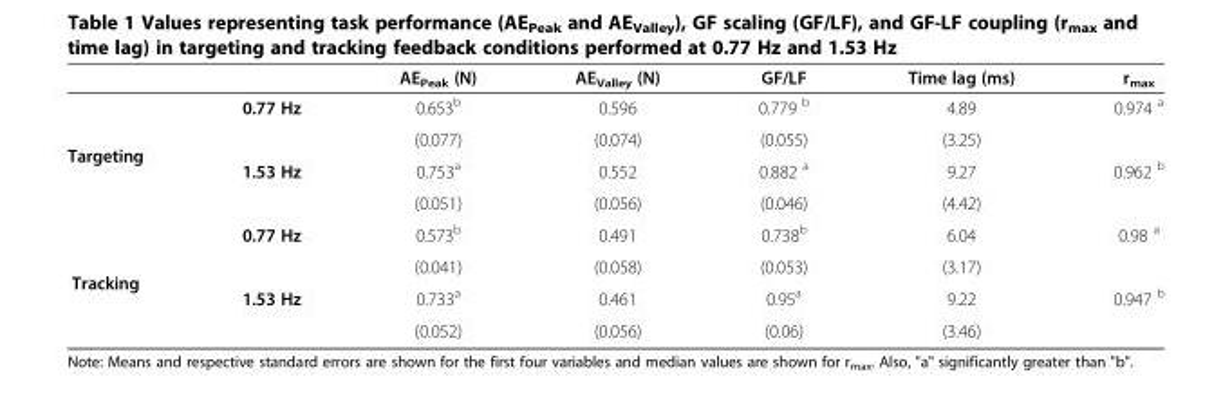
<table><thead><tr><td></td><td></td><td>AE<sub>Peak</sub> (N)</td><td>AE<sub>Valley</sub> (N)</td><td>GF/LF</td><td>Time lag (ms)</td><td>r<sub>max</sub></td></tr></thead><tbody><tr><td rowspan="4">Targeting</td><td rowspan="2">0.77 Hz</td><td>0.653<sup>b</sup></td><td>0.596</td><td>0.779 <sup>b</sup></td><td>4.89</td><td rowspan="2">0.974 <sup>a</sup></td></tr><tr><td>(0.077)</td><td>(0.074)</td><td>(0.055)</td><td>(3.25)</td></tr><tr><td rowspan="2">1.53 Hz</td><td>0.753<sup>a</sup></td><td>0.552</td><td>0.882 <sup>a</sup></td><td>9.27</td><td rowspan="2">0.962 <sup>b</sup></td></tr><tr><td>(0.051)</td><td>(0.056)</td><td>(0.046)</td><td>(4.42)</td></tr><tr><td rowspan="4">Tracking</td><td>0.77 Hz</td><td>0.573<sup>b</sup></td><td>0.491</td><td>0.738<sup>b</sup></td><td>6.04</td><td>0.98 <sup>a</sup></td></tr><tr><td></td><td>(0.041)</td><td>(0.058)</td><td>(0.053)</td><td>(3.17)</td><td></td></tr><tr><td>1.53 Hz</td><td>0.733<sup>a</sup></td><td>0.461</td><td>0.95<sup>a</sup></td><td>9.22</td><td>0.947 <sup>b</sup></td></tr><tr><td></td><td>(0.052)</td><td>(0.056)</td><td>(0.06)</td><td>(3.46)</td><td></td></tr></tbody></table>